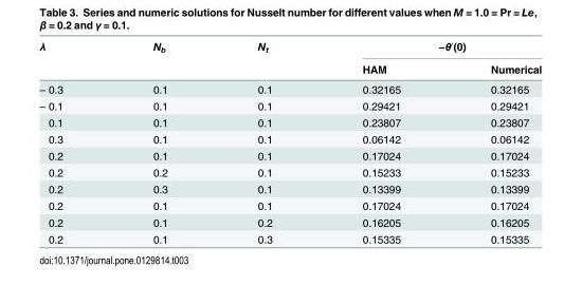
<table><thead><tr><td rowspan="2">λ</td><td rowspan="2">N<sub>b</sub></td><td rowspan="2">N<sub>t</sub></td><td colspan="2">−θ′(0)</td></tr><tr><td>HAM</td><td>Numerical</td></tr></thead><tbody><tr><td>– 0.3</td><td>0.1</td><td>0.1</td><td>0.32165</td><td>0.32165</td></tr><tr><td>– 0.1</td><td>0.1</td><td>0.1</td><td>0.29421</td><td>0.29421</td></tr><tr><td>0.1</td><td>0.1</td><td>0.1</td><td>0.23807</td><td>0.23807</td></tr><tr><td>0.3</td><td>0.1</td><td>0.1</td><td>0.06142</td><td>0.06142</td></tr><tr><td>0.2</td><td>0.1</td><td>0.1</td><td>0.17024</td><td>0.17024</td></tr><tr><td>0.2</td><td>0.2</td><td>0.1</td><td>0.15233</td><td>0.15233</td></tr><tr><td>0.2</td><td>0.3</td><td>0.1</td><td>0.13399</td><td>0.13399</td></tr><tr><td>0.2</td><td>0.1</td><td>0.1</td><td>0.17024</td><td>0.17024</td></tr><tr><td>0.2</td><td>0.1</td><td>0.2</td><td>0.16205</td><td>0.16205</td></tr><tr><td>0.2</td><td>0.1</td><td>0.3</td><td>0.15335</td><td>0.15335</td></tr></tbody></table>